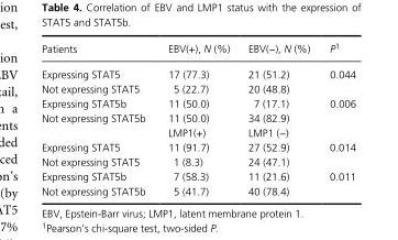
<table><thead><tr><td>Patients</td><td>EBV(+), N (%)</td><td>EBV(−), N (%)</td><td>P1</td></tr></thead><tbody><tr><td>Expressing STAT5</td><td>17 (77.3)</td><td>21 (51.2)</td><td>0.044</td></tr><tr><td>Not expressing STAT5</td><td>5 (22.7)</td><td>20 (48.8)</td><td></td></tr><tr><td>Expressing STAT5b</td><td>11 (50.0)</td><td>7 (17.1)</td><td rowspan="2">0.006</td></tr><tr><td rowspan="2">Not expressing STAT5b</td><td>11 (50.0)</td><td>34 (82.9)</td></tr><tr><td>LMP1(+)</td><td>LMP1 (−)</td><td></td></tr><tr><td>Expressing STAT5</td><td>11 (91.7)</td><td>27 (52.9)</td><td rowspan="2">0.014</td></tr><tr><td>Not expressing STAT5</td><td>1 (8.3)</td><td>24 (47.1)</td></tr><tr><td>Expressing STAT5b</td><td>7 (58.3)</td><td>11 (21.6)</td><td rowspan="2">0.011</td></tr><tr><td>Not expressing STAT5b</td><td>5 (41.7)</td><td>40 (78.4)</td></tr></tbody></table>